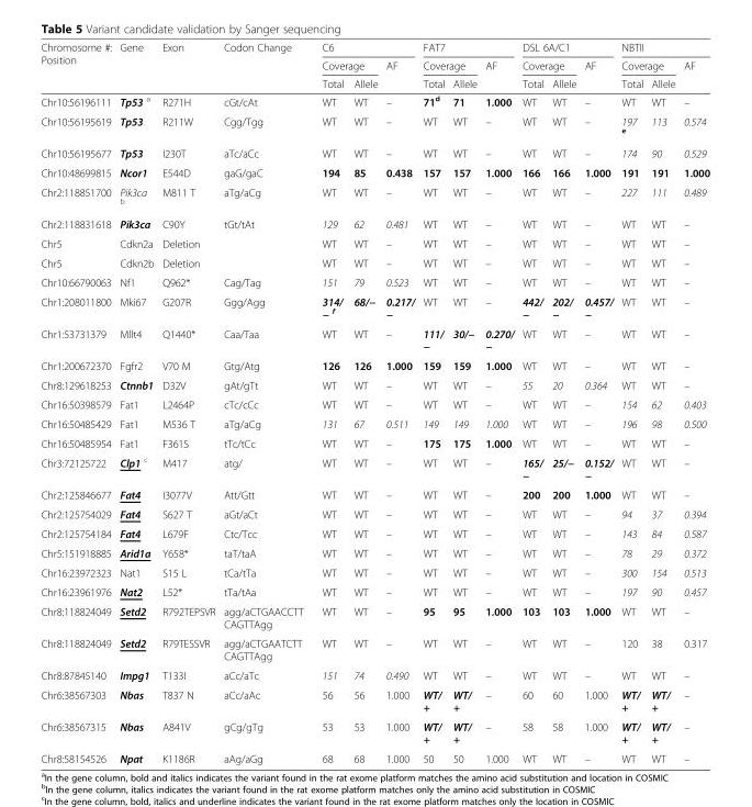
<table><thead><tr><td rowspan="3">Chromosome #: Position</td><td rowspan="3">Gene</td><td rowspan="3">Exon</td><td rowspan="3">Codon Change</td><td colspan="3">C6</td><td colspan="3">FAT7</td><td colspan="3">DSL 6A/C1</td><td colspan="3">NBTII</td></tr><tr><td colspan="2">Coverage</td><td rowspan="2">AF</td><td colspan="2">Coverage</td><td rowspan="2">AF</td><td colspan="2">Coverage</td><td rowspan="2">AF</td><td colspan="2">Coverage</td><td rowspan="2">AF</td></tr><tr><td>Total</td><td>Allele</td><td>Total</td><td>Allele</td><td>Total</td><td>Allele</td><td>Total</td><td>Allele</td></tr></thead><tbody><tr><td>Chr10:56196111</td><td>Tp53 <sup>a</sup></td><td>R271H</td><td>cGt/cAt</td><td>WT</td><td>WT</td><td>–</td><td>71<sup>d</sup></td><td>71</td><td>1.000</td><td>WT</td><td>WT</td><td>–</td><td>WT</td><td>WT</td><td>–</td></tr><tr><td>Chr10:56195619</td><td>Tp53</td><td>R211W</td><td>Cgg/Tgg</td><td>WT</td><td>WT</td><td>–</td><td>WT</td><td>WT</td><td>–</td><td>WT</td><td>WT</td><td>–</td><td>197 <sup>e</sup></td><td>113</td><td>0.574</td></tr><tr><td>Chr10:56195677</td><td>Tp53</td><td>I230T</td><td>aTc/aCc</td><td>WT</td><td>WT</td><td>–</td><td>WT</td><td>WT</td><td>–</td><td>WT</td><td>WT</td><td>–</td><td>174</td><td>90</td><td>0.529</td></tr><tr><td>Chr10:48699815</td><td>Ncor1</td><td>E544D</td><td>gaG/gaC</td><td>194</td><td>85</td><td>0.438</td><td>157</td><td>157</td><td>1.000</td><td>166</td><td>166</td><td>1.000</td><td>191</td><td>191</td><td>1.000</td></tr><tr><td>Chr2:118851700</td><td>Pik3ca <sup>b</sup></td><td>M811 T</td><td>aTg/aCg</td><td>WT</td><td>WT</td><td>–</td><td>WT</td><td>WT</td><td>–</td><td>WT</td><td>WT</td><td>–</td><td>227</td><td>111</td><td>0.489</td></tr><tr><td>Chr2:118831618</td><td>Pik3ca</td><td>C90Y</td><td>tGt/tAt</td><td>129</td><td>62</td><td>0.481</td><td>WT</td><td>WT</td><td>–</td><td>WT</td><td>WT</td><td>–</td><td>WT</td><td>WT</td><td>–</td></tr><tr><td>Chr5</td><td>Cdkn2a</td><td>Deletion</td><td></td><td>WT</td><td>WT</td><td>–</td><td>WT</td><td>WT</td><td>–</td><td>WT</td><td>WT</td><td>–</td><td>WT</td><td>WT</td><td>–</td></tr><tr><td>Chr5</td><td>Cdkn2b</td><td>Deletion</td><td></td><td>WT</td><td>WT</td><td>–</td><td>WT</td><td>WT</td><td>–</td><td>WT</td><td>WT</td><td>–</td><td>WT</td><td>WT</td><td>–</td></tr><tr><td>Chr10:66790063</td><td>Nf1</td><td>Q962*</td><td>Cag/Tag</td><td>151</td><td>79</td><td>0.523</td><td>WT</td><td>WT</td><td>–</td><td>WT</td><td>WT</td><td>–</td><td>WT</td><td>WT</td><td>–</td></tr><tr><td>Chr1:208011800</td><td>Mki67</td><td>G207R</td><td>Ggg/Agg</td><td>314/ − <sup>f</sup></td><td>68/−</td><td>0.217/ −</td><td>WT</td><td>WT</td><td>–</td><td>442/ −</td><td>202/ −</td><td>0.457/ −</td><td>WT</td><td>WT</td><td>–</td></tr><tr><td>Chr1:53731379</td><td>Mllt4</td><td>Q1440*</td><td>Caa/Taa</td><td>WT</td><td>WT</td><td>–</td><td>111/ −</td><td>30/−</td><td>0.270/ −</td><td>WT</td><td>WT</td><td>–</td><td>WT</td><td>WT</td><td>–</td></tr><tr><td>Chr1:200672370</td><td>Fgfr2</td><td>V70 M</td><td>Gtg/Atg</td><td>126</td><td>126</td><td>1.000</td><td>159</td><td>159</td><td>1.000</td><td>WT</td><td>WT</td><td>–</td><td>WT</td><td>WT</td><td>–</td></tr><tr><td>Chr8:129618253</td><td>Ctnnb1</td><td>D32V</td><td>gAt/gTt</td><td>WT</td><td>WT</td><td>–</td><td>WT</td><td>WT</td><td>–</td><td>55</td><td>20</td><td>0.364</td><td>WT</td><td>WT</td><td>–</td></tr><tr><td>Chr16:50398579</td><td>Fat1</td><td>L2464P</td><td>cTc/cCc</td><td>WT</td><td>WT</td><td>–</td><td>WT</td><td>WT</td><td>–</td><td>WT</td><td>WT</td><td>–</td><td>154</td><td>62</td><td>0.403</td></tr><tr><td>Chr16:50485429</td><td>Fat1</td><td>M536 T</td><td>aTg/aCg</td><td>131</td><td>67</td><td>0.511</td><td>149</td><td>149</td><td>1.000</td><td>WT</td><td>WT</td><td>–</td><td>196</td><td>98</td><td>0.500</td></tr><tr><td>Chr16:50485954</td><td>Fat1</td><td>F361S</td><td>tTc/tCc</td><td>WT</td><td>WT</td><td>–</td><td>175</td><td>175</td><td>1.000</td><td>WT</td><td>WT</td><td>–</td><td>WT</td><td>WT</td><td>–</td></tr><tr><td>Chr3:72125722</td><td>Clp1 <sup>c</sup></td><td>M417</td><td>atg/</td><td>WT</td><td>WT</td><td>–</td><td>WT</td><td>WT</td><td>–</td><td>165/ −</td><td>25/−</td><td>0.152/ −</td><td>WT</td><td>WT</td><td>–</td></tr><tr><td>Chr2:125846677</td><td>Fat4</td><td>I3077V</td><td>Att/Gtt</td><td>WT</td><td>WT</td><td>–</td><td>WT</td><td>WT</td><td>–</td><td>200</td><td>200</td><td>1.000</td><td>WT</td><td>WT</td><td>–</td></tr><tr><td>Chr2:125754029</td><td>Fat4</td><td>S627 T</td><td>aGt/aCt</td><td>WT</td><td>WT</td><td>–</td><td>WT</td><td>WT</td><td>–</td><td>WT</td><td>WT</td><td>–</td><td>94</td><td>37</td><td>0.394</td></tr><tr><td>Chr2:125754184</td><td>Fat4</td><td>L679F</td><td>Ctc/Tcc</td><td>WT</td><td>WT</td><td>–</td><td>WT</td><td>WT</td><td>–</td><td>WT</td><td>WT</td><td>–</td><td>143</td><td>84</td><td>0.587</td></tr><tr><td>Chr5:151918885</td><td>Arid1a</td><td>Y658*</td><td>taT/taA</td><td>WT</td><td>WT</td><td>–</td><td>WT</td><td>WT</td><td>–</td><td>WT</td><td>WT</td><td>–</td><td>78</td><td>29</td><td>0.372</td></tr><tr><td>Chr16:23972323</td><td>Nat1</td><td>S15 L</td><td>tCa/tTa</td><td>WT</td><td>WT</td><td>–</td><td>WT</td><td>WT</td><td>–</td><td>WT</td><td>WT</td><td>–</td><td>300</td><td>154</td><td>0.513</td></tr><tr><td>Chr16:23961976</td><td>Nat2</td><td>L52*</td><td>tTa/tAa</td><td>WT</td><td>WT</td><td>–</td><td>WT</td><td>WT</td><td>–</td><td>WT</td><td>WT</td><td>–</td><td>197</td><td>90</td><td>0.457</td></tr><tr><td>Chr8:118824049</td><td>Setd2</td><td>R792TEPSVR</td><td>agg/aCTGAACCTT CAGTTAgg</td><td>WT</td><td>WT</td><td>–</td><td>95</td><td>95</td><td>1.000</td><td>103</td><td>103</td><td>1.000</td><td>WT</td><td>WT</td><td>–</td></tr><tr><td>Chr8:118824049</td><td>Setd2</td><td>R79TESSVR</td><td>agg/aCTGAATCTT CAGTTAgg</td><td>WT</td><td>WT</td><td>–</td><td>WT</td><td>WT</td><td>–</td><td>WT</td><td>WT</td><td>–</td><td>120</td><td>38</td><td>0.317</td></tr><tr><td>Chr8:87845140</td><td>Impg1</td><td>T133I</td><td>aCc/aTc</td><td>151</td><td>74</td><td>0.490</td><td>WT</td><td>WT</td><td>–</td><td>WT</td><td>WT</td><td>–</td><td>WT</td><td>WT</td><td>–</td></tr><tr><td>Chr6:38567303</td><td>Nbas</td><td>T837 N</td><td>aCc/aAc</td><td>56</td><td>56</td><td>1.000</td><td>WT/ +</td><td>WT/ +</td><td>–</td><td>60</td><td>60</td><td>1.000</td><td>WT/ +</td><td>WT/ +</td><td>–</td></tr><tr><td>Chr6:38567315</td><td>Nbas</td><td>A841V</td><td>gCg/gTg</td><td>53</td><td>53</td><td>1.000</td><td>WT/ +</td><td>WT/ +</td><td>–</td><td>58</td><td>58</td><td>1.000</td><td>WT/ +</td><td>WT/ +</td><td>–</td></tr><tr><td>Chr8:58154526</td><td>Npat</td><td>K1186R</td><td>aAg/aGg</td><td>68</td><td>68</td><td>1.000</td><td>50</td><td>50</td><td>1.000</td><td>WT</td><td>WT</td><td>–</td><td>WT</td><td>WT</td><td>–</td></tr></tbody></table>